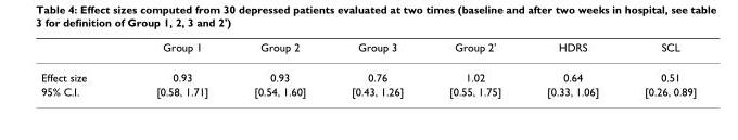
<table><thead><tr><td></td><td>Group 1</td><td>Group 2</td><td>Group 3</td><td>Group 2&#x27;</td><td>HDRS</td><td>SCL</td></tr></thead><tbody><tr><td>Effect size</td><td>0.93</td><td>0.93</td><td>0.76</td><td>1.02</td><td>0.64</td><td>0.51</td></tr><tr><td>95% C.I.</td><td>[0.58, 1.71]</td><td>[0.54, 1.60]</td><td>[0.43, 1.26]</td><td>[0.55, 1.75]</td><td>[0.33, 1.06]</td><td>[0.26, 0.89]</td></tr></tbody></table>